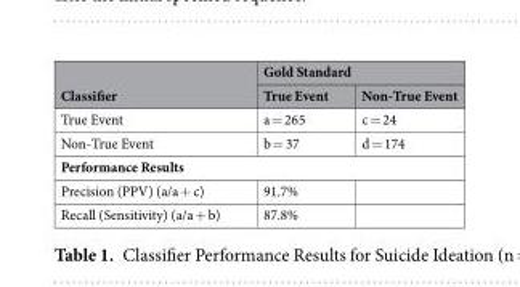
<table><thead><tr><td rowspan="2">Classifier</td><td colspan="2">Gold Standard</td></tr><tr><td>True Event</td><td>Non-True Event</td></tr></thead><tbody><tr><td>True Event</td><td>a = 265</td><td>c = 24</td></tr><tr><td>Non-True Event</td><td>b = 37</td><td>d = 174</td></tr><tr><td colspan="3">Performance Results</td></tr><tr><td>Precision (PPV) (a/a + c)</td><td>91.7%</td><td></td></tr><tr><td>Recall (Sensitivity) (a/a + b)</td><td>87.8%</td><td></td></tr></tbody></table>